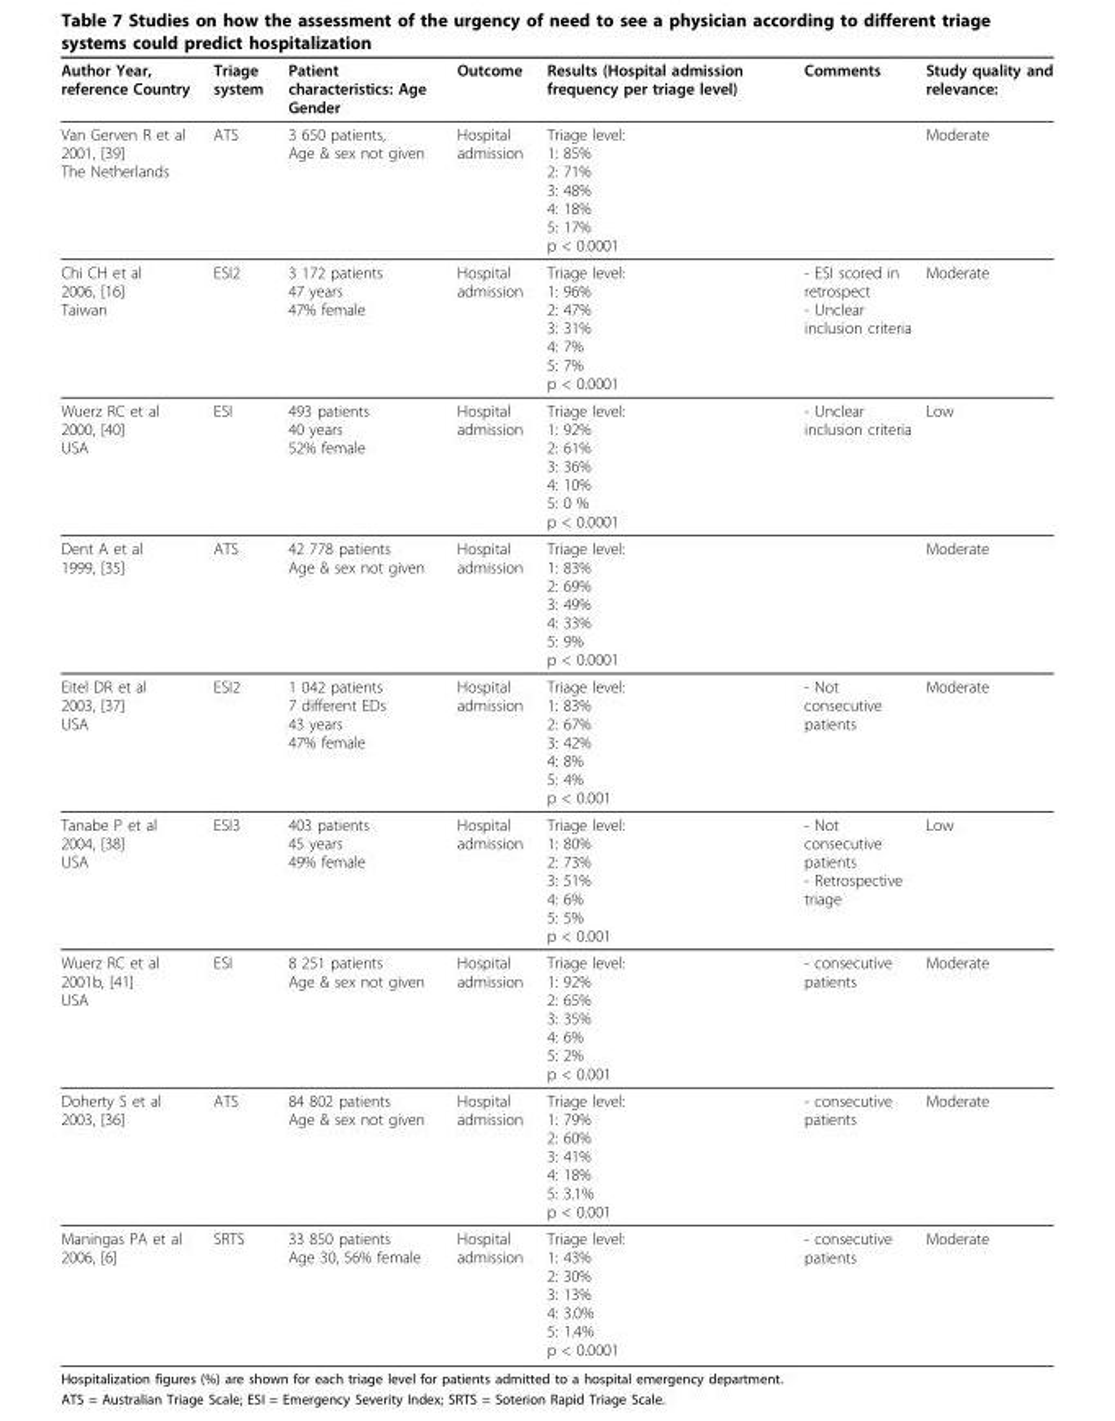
<table><thead><tr><td>Author Year, reference Country</td><td>Triage system</td><td>Patient characteristics: Age Gender</td><td>Outcome</td><td>Results (Hospital admission frequency per triage level)</td><td>Comments</td><td>Study quality and relevance:</td></tr></thead><tbody><tr><td>Van Gerven R et al 2001, [39] The Netherlands</td><td>ATS</td><td>3 650 patients, Age &amp; sex not given</td><td>Hospital admission</td><td>Triage level: 1: 85% 2: 71% 3: 48% 4: 18% 5: 17% p &lt; 0.0001</td><td></td><td>Moderate</td></tr><tr><td>Chi CH et al 2006, [16] Taiwan</td><td>ESI2</td><td>3 172 patients 47 years 47% female</td><td>Hospital admission</td><td>Triage level: 1: 96% 2: 47% 3: 31% 4: 7% 5: 7% p &lt; 0.0001</td><td>- ESI scored in retrospect - Unclear inclusion criteria</td><td>Moderate</td></tr><tr><td>Wuerz RC et al 2000, [40] USA</td><td>ESI</td><td>493 patients 40 years 52% female</td><td>Hospital admission</td><td>Triage level: 1: 92% 2: 61% 3: 36% 4: 10% 5: 0 % p &lt; 0.0001</td><td>- Unclear inclusion criteria</td><td>Low</td></tr><tr><td>Dent A et al 1999, [35]</td><td>ATS</td><td>42 778 patients Age &amp; sex not given</td><td>Hospital admission</td><td>Triage level: 1: 83% 2: 69% 3: 49% 4: 33% 5: 9% p &lt; 0.0001</td><td></td><td>Moderate</td></tr><tr><td>Eitel DR et al 2003, [37] USA</td><td>ESI2</td><td>1 042 patients 7 different EDs 43 years 47% female</td><td>Hospital admission</td><td>Triage level: 1: 83% 2: 67% 3: 42% 4: 8% 5: 4% p &lt; 0.001</td><td>- Not consecutive patients</td><td>Moderate</td></tr><tr><td>Tanabe P et al 2004, [38] USA</td><td>ESI3</td><td>403 patients 45 years 49% female</td><td>Hospital admission</td><td>Triage level: 1: 80% 2: 73% 3: 51% 4: 6% 5: 5% p &lt; 0.001</td><td>- Not consecutive patients - Retrospective triage</td><td>Low</td></tr><tr><td>Wuerz RC et al 2001b, [41] USA</td><td>ESI</td><td>8 251 patients Age &amp; sex not given</td><td>Hospital admission</td><td>Triage level: 1: 92% 2: 65% 3: 35% 4: 6% 5: 2% p &lt; 0.001</td><td>- consecutive patients</td><td>Moderate</td></tr><tr><td>Doherty S et al 2003, [36]</td><td>ATS</td><td>84 802 patients Age &amp; sex not given</td><td>Hospital admission</td><td>Triage level: 1: 79% 2: 60% 3: 41% 4: 18% 5: 3.1% p &lt; 0.001</td><td>- consecutive patients</td><td>Moderate</td></tr><tr><td>Maningas PA et al 2006, [6]</td><td>SRTS</td><td>33 850 patients Age 30, 56% female</td><td>Hospital admission</td><td>Triage level: 1: 43% 2: 30% 3: 13% 4: 3.0% 5: 1.4% p &lt; 0.0001</td><td>- consecutive patients</td><td>Moderate</td></tr></tbody></table>